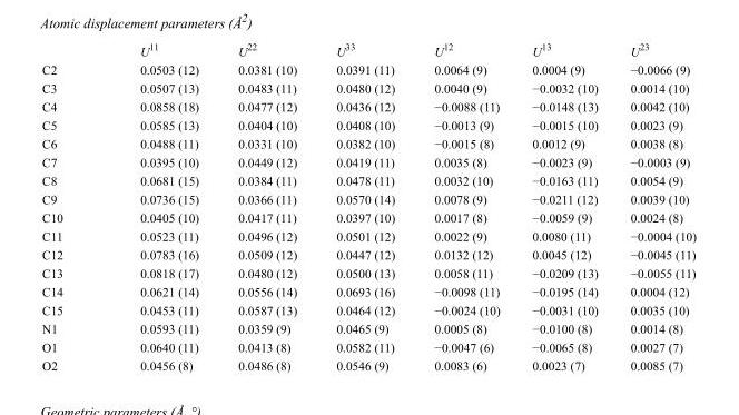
<table><thead><tr><td></td><td>U<sup>11</sup></td><td>U<sup>22</sup></td><td>U<sup>33</sup></td><td>U<sup>12</sup></td><td>U<sup>13</sup></td><td>U<sup>23</sup></td></tr></thead><tbody><tr><td>C2</td><td>0.0503 (12)</td><td>0.0381 (10)</td><td>0.0391 (11)</td><td>0.0064 (9)</td><td>0.0004 (9)</td><td>−0.0066 (9)</td></tr><tr><td>C3</td><td>0.0507 (13)</td><td>0.0483 (11)</td><td>0.0480 (12)</td><td>0.0040 (9)</td><td>−0.0032 (10)</td><td>0.0014 (10)</td></tr><tr><td>C4</td><td>0.0858 (18)</td><td>0.0477 (12)</td><td>0.0436 (12)</td><td>−0.0088 (11)</td><td>−0.0148 (13)</td><td>0.0042 (10)</td></tr><tr><td>C5</td><td>0.0585 (13)</td><td>0.0404 (10)</td><td>0.0408 (10)</td><td>−0.0013 (9)</td><td>−0.0015 (10)</td><td>0.0023 (9)</td></tr><tr><td>C6</td><td>0.0488 (11)</td><td>0.0331 (10)</td><td>0.0382 (10)</td><td>−0.0015 (8)</td><td>0.0012 (9)</td><td>0.0038 (8)</td></tr><tr><td>C7</td><td>0.0395 (10)</td><td>0.0449 (12)</td><td>0.0419 (11)</td><td>0.0035 (8)</td><td>−0.0023 (9)</td><td>−0.0003 (9)</td></tr><tr><td>C8</td><td>0.0681 (15)</td><td>0.0384 (11)</td><td>0.0478 (11)</td><td>0.0032 (10)</td><td>−0.0163 (11)</td><td>0.0054 (9)</td></tr><tr><td>C9</td><td>0.0736 (15)</td><td>0.0366 (11)</td><td>0.0570 (14)</td><td>0.0078 (9)</td><td>−0.0211 (12)</td><td>0.0039 (10)</td></tr><tr><td>C10</td><td>0.0405 (10)</td><td>0.0417 (11)</td><td>0.0397 (10)</td><td>0.0017 (8)</td><td>−0.0059 (9)</td><td>0.0024 (8)</td></tr><tr><td>C11</td><td>0.0523 (11)</td><td>0.0496 (12)</td><td>0.0501 (12)</td><td>0.0022 (9)</td><td>0.0080 (11)</td><td>−0.0004 (10)</td></tr><tr><td>C12</td><td>0.0783 (16)</td><td>0.0509 (12)</td><td>0.0447 (12)</td><td>0.0132 (12)</td><td>0.0045 (12)</td><td>−0.0045 (11)</td></tr><tr><td>C13</td><td>0.0818 (17)</td><td>0.0480 (12)</td><td>0.0500 (13)</td><td>0.0058 (11)</td><td>−0.0209 (13)</td><td>−0.0055 (11)</td></tr><tr><td>C14</td><td>0.0621 (14)</td><td>0.0556 (14)</td><td>0.0693 (16)</td><td>−0.0098 (11)</td><td>−0.0195 (14)</td><td>0.0004 (12)</td></tr><tr><td>C15</td><td>0.0453 (11)</td><td>0.0587 (13)</td><td>0.0464 (12)</td><td>−0.0024 (10)</td><td>−0.0031 (10)</td><td>0.0035 (10)</td></tr><tr><td>N1</td><td>0.0593 (11)</td><td>0.0359 (9)</td><td>0.0465 (9)</td><td>0.0005 (8)</td><td>−0.0100 (8)</td><td>0.0014 (8)</td></tr><tr><td>O1</td><td>0.0640 (11)</td><td>0.0413 (8)</td><td>0.0582 (11)</td><td>−0.0047 (6)</td><td>−0.0065 (8)</td><td>0.0027 (7)</td></tr><tr><td>O2</td><td>0.0456 (8)</td><td>0.0486 (8)</td><td>0.0546 (9)</td><td>0.0083 (6)</td><td>0.0023 (7)</td><td>0.0085 (7)</td></tr></tbody></table>